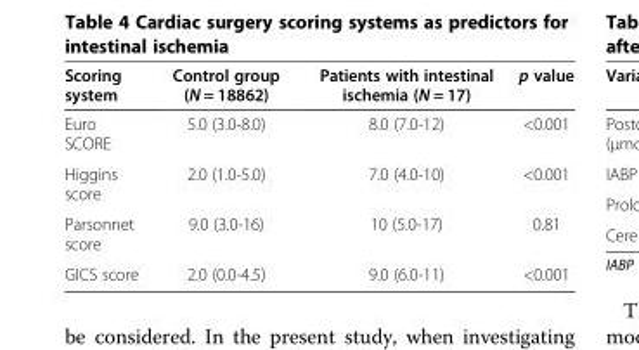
<table><thead><tr><td>Scoring system</td><td>Control group (N = 18862)</td><td>Patients with intestinal ischemia (N = 17)</td><td>p value</td></tr></thead><tbody><tr><td>Euro SCORE</td><td>5.0 (3.0-8.0)</td><td>8.0 (7.0-12)</td><td>&lt;0.001</td></tr><tr><td>Higgins score</td><td>2.0 (1.0-5.0)</td><td>7.0 (4.0-10)</td><td>&lt;0.001</td></tr><tr><td>Parsonnet score</td><td>9.0 (3.0-16)</td><td>10 (5.0-17)</td><td>0.81</td></tr><tr><td>GICS score</td><td>2.0 (0.0-4.5)</td><td>9.0 (6.0-11)</td><td>&lt;0.001</td></tr></tbody></table>